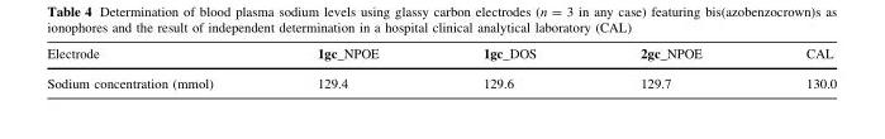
<table><thead><tr><td>Electrode</td><td>1gc_NPOE</td><td>1gc_DOS</td><td>2gc_NPOE</td><td>CAL</td></tr></thead><tbody><tr><td>Sodium concentration (mmol)</td><td>129.4</td><td>129.6</td><td>129.7</td><td>130.0</td></tr></tbody></table>